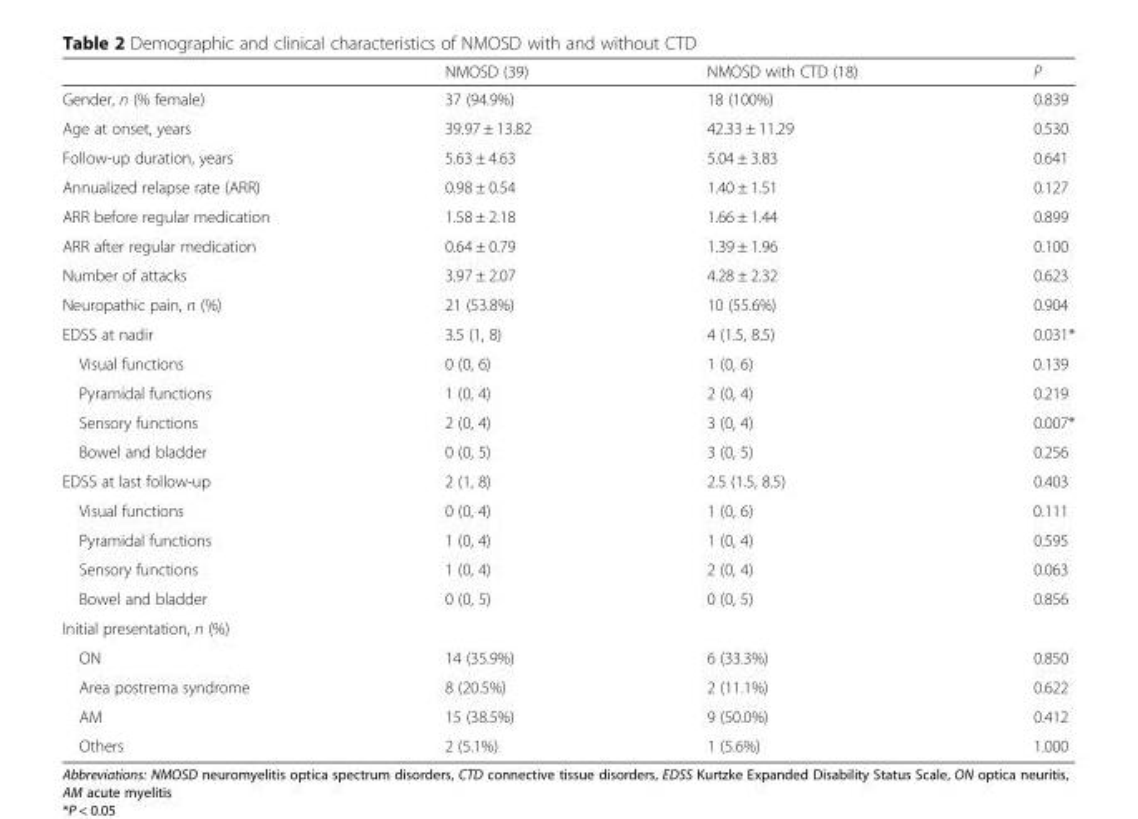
<table><thead><tr><td></td><td>NMOSD (39)</td><td>NMOSD with CTD (18)</td><td>P</td></tr></thead><tbody><tr><td>Gender, n (% female)</td><td>37 (94.9%)</td><td>18 (100%)</td><td>0.839</td></tr><tr><td>Age at onset, years</td><td>39.97 ± 13.82</td><td>42.33 ± 11.29</td><td>0.530</td></tr><tr><td>Follow-up duration, years</td><td>5.63 ± 4.63</td><td>5.04 ± 3.83</td><td>0.641</td></tr><tr><td>Annualized relapse rate (ARR)</td><td>0.98 ± 0.54</td><td>1.40 ± 1.51</td><td>0.127</td></tr><tr><td>ARR before regular medication</td><td>1.58 ± 2.18</td><td>1.66 ± 1.44</td><td>0.899</td></tr><tr><td>ARR after regular medication</td><td>0.64 ± 0.79</td><td>1.39 ± 1.96</td><td>0.100</td></tr><tr><td>Number of attacks</td><td>3.97 ± 2.07</td><td>4.28 ± 2.32</td><td>0.623</td></tr><tr><td>Neuropathic pain, n (%)</td><td>21 (53.8%)</td><td>10 (55.6%)</td><td>0.904</td></tr><tr><td>EDSS at nadir</td><td>3.5 (1, 8)</td><td>4 (1.5, 8.5)</td><td>0.031*</td></tr><tr><td>Visual functions</td><td>0 (0, 6)</td><td>1 (0, 6)</td><td>0.139</td></tr><tr><td>Pyramidal functions</td><td>1 (0, 4)</td><td>2 (0, 4)</td><td>0.219</td></tr><tr><td>Sensory functions</td><td>2 (0, 4)</td><td>3 (0, 4)</td><td>0.007*</td></tr><tr><td>Bowel and bladder</td><td>0 (0, 5)</td><td>3 (0, 5)</td><td>0.256</td></tr><tr><td>EDSS at last follow-up</td><td>2 (1, 8)</td><td>2.5 (1.5, 8.5)</td><td>0.403</td></tr><tr><td>Visual functions</td><td>0 (0, 4)</td><td>1 (0, 6)</td><td>0.111</td></tr><tr><td>Pyramidal functions</td><td>1 (0, 4)</td><td>1 (0, 4)</td><td>0.595</td></tr><tr><td>Sensory functions</td><td>1 (0, 4)</td><td>2 (0, 4)</td><td>0.063</td></tr><tr><td>Bowel and bladder</td><td>0 (0, 5)</td><td>0 (0, 5)</td><td>0.856</td></tr><tr><td colspan="4">Initial presentation, n (%)</td></tr><tr><td>ON</td><td>14 (35.9%)</td><td>6 (33.3%)</td><td>0.850</td></tr><tr><td>Area postrema syndrome</td><td>8 (20.5%)</td><td>2 (11.1%)</td><td>0.622</td></tr><tr><td>AM</td><td>15 (38.5%)</td><td>9 (50.0%)</td><td>0.412</td></tr><tr><td>Others</td><td>2 (5.1%)</td><td>1 (5.6%)</td><td>1.000</td></tr></tbody></table>